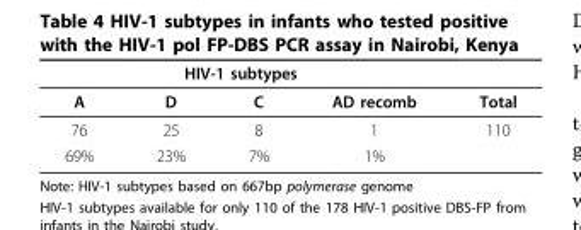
<table><thead><tr><td colspan="4">HIV-1 subtypes</td><td rowspan="2">Total</td></tr><tr><td>A</td><td>D</td><td>C</td><td>AD recomb</td></tr></thead><tbody><tr><td>76</td><td>25</td><td>8</td><td>1</td><td>110</td></tr><tr><td>69%</td><td>23%</td><td>7%</td><td>1%</td><td></td></tr></tbody></table>